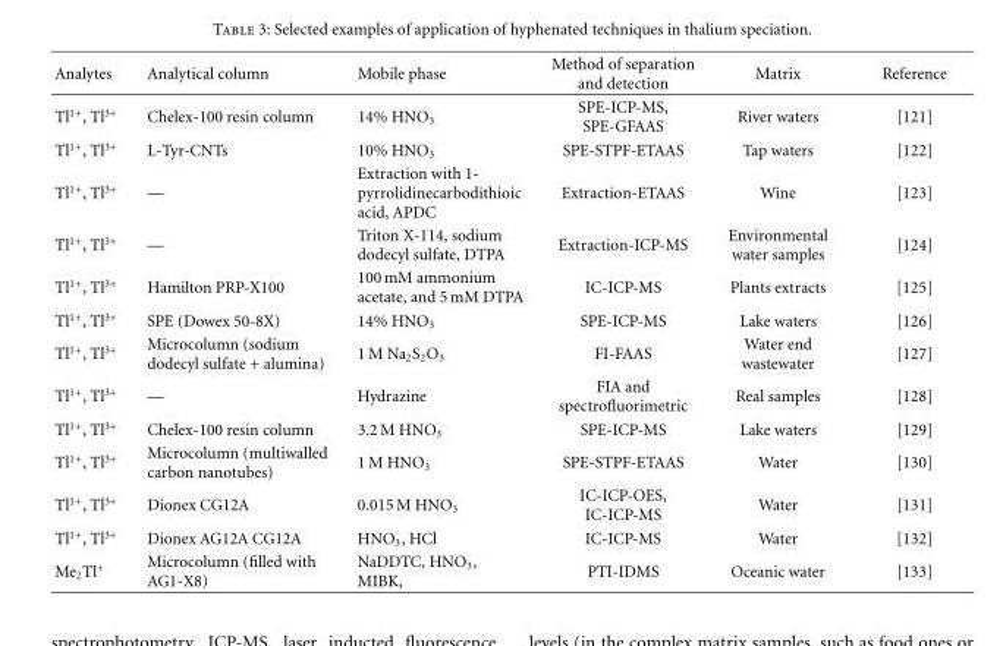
<table><thead><tr><td>Analytes</td><td>Analytical column</td><td>Mobile phase</td><td>Method of separation and detection</td><td>Matrix</td><td>Reference</td></tr></thead><tbody><tr><td>Tl<sup>1+</sup>, Tl<sup>3+</sup></td><td>Chelex-100 resin column</td><td>14% HNO<sub>3</sub></td><td>SPE-ICP-MS, SPE-GFAAS</td><td>River waters</td><td>[121]</td></tr><tr><td>Tl<sup>1+</sup>, Tl<sup>3+</sup></td><td>L-Tyr-CNTs</td><td>10% HNO<sub>3</sub></td><td>SPE-STPF-ETAAS</td><td>Tap waters</td><td>[122]</td></tr><tr><td>Tl<sup>1+</sup>, Tl<sup>3+</sup></td><td>—</td><td>Extraction with 1- pyrrolidinecarbodithioic acid, APDC</td><td>Extraction-ETAAS</td><td>Wine</td><td>[123]</td></tr><tr><td>Tl<sup>1+</sup>, Tl<sup>3+</sup></td><td>—</td><td>Triton X-114, sodium dodecyl sulfate, DTPA</td><td>Extraction-ICP-MS</td><td>Environmental water samples</td><td>[124]</td></tr><tr><td>Tl<sup>1+</sup>, Tl<sup>3+</sup></td><td>Hamilton PRP-X100</td><td>100 mM ammonium acetate, and 5 mM DTPA</td><td>IC-ICP-MS</td><td>Plants extracts</td><td>[125]</td></tr><tr><td>Tl<sup>1+</sup>, Tl<sup>3+</sup></td><td>SPE (Dowex 50-8X)</td><td>14% HNO<sub>3</sub></td><td>SPE-ICP-MS</td><td>Lake waters</td><td>[126]</td></tr><tr><td>Tl<sup>1+</sup>, Tl<sup>3+</sup></td><td>Microcolumn (sodium dodecyl sulfate + alumina)</td><td>1 M Na<sub>2</sub>S<sub>2</sub>O<sub>3</sub></td><td>FI-FAAS</td><td>Water end wastewater</td><td>[127]</td></tr><tr><td>Tl<sup>1+</sup>, Tl<sup>3+</sup></td><td>—</td><td>Hydrazine</td><td>FIA and spectrofluorimetric</td><td>Real samples</td><td>[128]</td></tr><tr><td>Tl<sup>1+</sup>, Tl<sup>3+</sup></td><td>Chelex-100 resin column</td><td>3.2 M HNO<sub>3</sub></td><td>SPE-ICP-MS</td><td>Lake waters</td><td>[129]</td></tr><tr><td>Tl<sup>1+</sup>, Tl<sup>3+</sup></td><td>Microcolumn (multiwalled carbon nanotubes)</td><td>1 M HNO<sub>3</sub></td><td>SPE-STPF-ETAAS</td><td>Water</td><td>[130]</td></tr><tr><td>Tl<sup>1+</sup>, Tl<sup>3+</sup></td><td>Dionex CG12A</td><td>0.015 M HNO<sub>3</sub></td><td>IC-ICP-OES, IC-ICP-MS</td><td>Water</td><td>[131]</td></tr><tr><td>Tl<sup>1+</sup>, Tl<sup>3+</sup></td><td>Dionex AG12A CG12A</td><td>HNO<sub>3</sub>, HCl</td><td>IC-ICP-MS</td><td>Water</td><td>[132]</td></tr><tr><td>Me<sub>2</sub>Tl<sup>+</sup></td><td>Microcolumn (filled with AG1-X8)</td><td>NaDDTC, HNO<sub>3</sub>, MIBK,</td><td>PTI-IDMS</td><td>Oceanic water</td><td>[133]</td></tr></tbody></table>